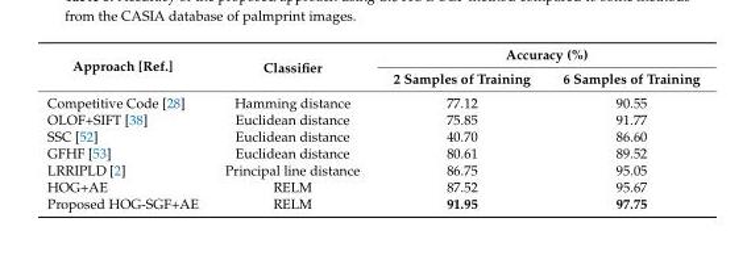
<table><thead><tr><td rowspan="2">Approach [Ref.]</td><td rowspan="2">Classifier</td><td colspan="2">Accuracy (%)</td></tr><tr><td>2 Samples of Training</td><td>6 Samples of Training</td></tr></thead><tbody><tr><td>Competitive Code [28]</td><td>Hamming distance</td><td>77.12</td><td>90.55</td></tr><tr><td>OLOF+SIFT [38]</td><td>Euclidean distance</td><td>75.85</td><td>91.77</td></tr><tr><td>SSC [52]</td><td>Euclidean distance</td><td>40.70</td><td>86.60</td></tr><tr><td>GFHF [53]</td><td>Euclidean distance</td><td>80.61</td><td>89.52</td></tr><tr><td>LRRIPLD [2]</td><td>Principal line distance</td><td>86.75</td><td>95.05</td></tr><tr><td>HOG+AE</td><td>RELM</td><td>87.52</td><td>95.67</td></tr><tr><td>Proposed HOG-SGF+AE</td><td>RELM</td><td>91.95</td><td>97.75</td></tr></tbody></table>